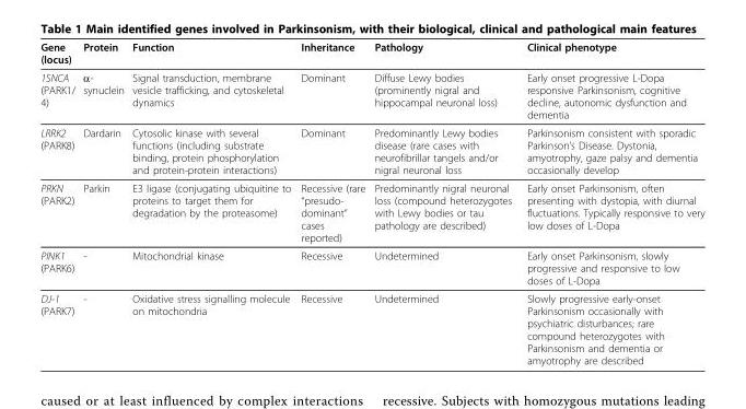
<table><thead><tr><td>Gene (locus)</td><td>Protein</td><td>Function</td><td>Inheritance</td><td>Pathology</td><td>Clinical phenotype</td></tr></thead><tbody><tr><td>1SNCA (PARK1/ 4)</td><td>α- synuclein</td><td>Signal transduction, membrane vesicle trafficking, and cytoskeletal dynamics</td><td>Dominant</td><td>Diffuse Lewy bodies (prominently nigral and hippocampal neuronal loss)</td><td>Early onset progressive L-Dopa responsive Parkinsonism, cognitive decline, autonomic dysfunction and dementia</td></tr><tr><td>LRRK2 (PARK8)</td><td>Dardarin</td><td>Cytosolic kinase with several functions (including substrate binding, protein phosphorylation and protein-protein interactions)</td><td>Dominant</td><td>Predominantly Lewy bodies disease (rare cases with neurofibrillar tangels and/or nigral neuronal loss</td><td>Parkinsonism consistent with sporadic Parkinson’s Disease. Dystonia, amyotrophy, gaze palsy and dementia occasionally develop</td></tr><tr><td>PRKN (PARK2)</td><td>Parkin</td><td>E3 ligase (conjugating ubiquitine to proteins to target them for degradation by the proteasome)</td><td>Recessive (rare “presudo- dominant” cases reported)</td><td>Predominantly nigral neuronal loss (compound heterozygotes with Lewy bodies or tau pathology are described)</td><td>Early onset Parkinsonism, often presenting with dystopia, with diurnal fluctuations. Typically responsive to very low doses of L-Dopa</td></tr><tr><td>PINK1 (PARK6)</td><td>-</td><td>Mitochondrial kinase</td><td>Recessive</td><td>Undetermined</td><td>Early onset Parkinsonism, slowly progressive and responsive to low doses of L-Dopa</td></tr><tr><td>DJ-1 (PARK7)</td><td>-</td><td>Oxidative stress signalling molecule on mitochondria</td><td>Recessive</td><td>Undetermined</td><td>Slowly progressive early-onset Parkinsonism occasionally with psychiatric disturbances; rare compound heterozygotes with Parkinsonism and dementia or amyotrophy are described</td></tr></tbody></table>